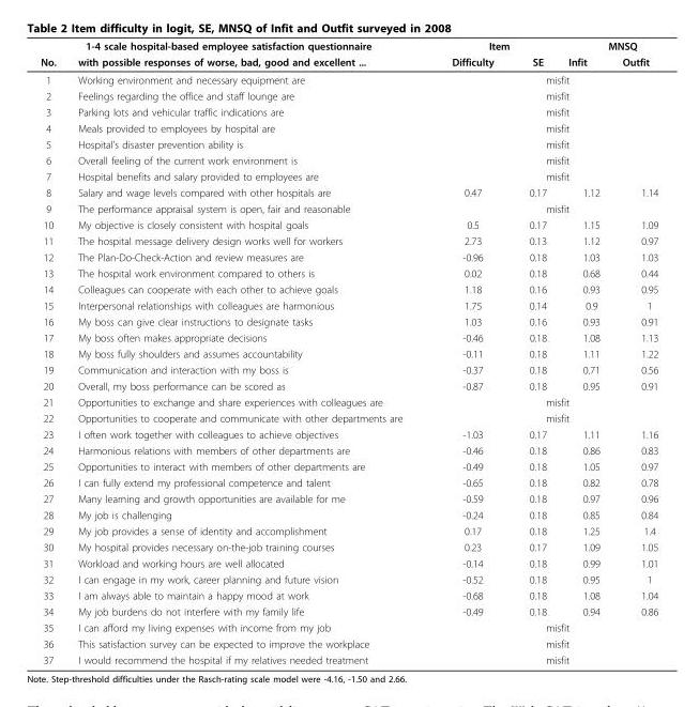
<table><thead><tr><td colspan="2">1-4 scale hospital-based employee satisfaction questionnaire</td><td colspan="2">Item</td><td colspan="2">MNSQ</td></tr><tr><td>No.</td><td>with possible responses of worse, bad, good and excellent ...</td><td>Difficulty</td><td>SE</td><td>Infit</td><td>Outfit</td></tr></thead><tbody><tr><td>1</td><td>Working environment and necessary equipment are</td><td colspan="4">misfit</td></tr><tr><td>2</td><td>Feelings regarding the office and staff lounge are</td><td colspan="4">misfit</td></tr><tr><td>3</td><td>Parking lots and vehicular traffic indications are</td><td colspan="4">misfit</td></tr><tr><td>4</td><td>Meals provided to employees by hospital are</td><td colspan="4">misfit</td></tr><tr><td>5</td><td>Hospital’s disaster prevention ability is</td><td colspan="4">misfit</td></tr><tr><td>6</td><td>Overall feeling of the current work environment is</td><td colspan="4">misfit</td></tr><tr><td>7</td><td>Hospital benefits and salary provided to employees are</td><td colspan="4">misfit</td></tr><tr><td>8</td><td>Salary and wage levels compared with other hospitals are</td><td>0.47</td><td>0.17</td><td>1.12</td><td>1.14</td></tr><tr><td>9</td><td>The performance appraisal system is open, fair and reasonable</td><td colspan="4">misfit</td></tr><tr><td>10</td><td>My objective is closely consistent with hospital goals</td><td>0.5</td><td>0.17</td><td>1.15</td><td>1.09</td></tr><tr><td>11</td><td>The hospital message delivery design works well for workers</td><td>2.73</td><td>0.13</td><td>1.12</td><td>0.97</td></tr><tr><td>12</td><td>The Plan-Do-Check-Action and review measures are</td><td>-0.96</td><td>0.18</td><td>1.03</td><td>1.03</td></tr><tr><td>13</td><td>The hospital work environment compared to others is</td><td>0.02</td><td>0.18</td><td>0.68</td><td>0.44</td></tr><tr><td>14</td><td>Colleagues can cooperate with each other to achieve goals</td><td>1.18</td><td>0.16</td><td>0.93</td><td>0.95</td></tr><tr><td>15</td><td>Interpersonal relationships with colleagues are harmonious</td><td>1.75</td><td>0.14</td><td>0.9</td><td>1</td></tr><tr><td>16</td><td>My boss can give clear instructions to designate tasks</td><td>1.03</td><td>0.16</td><td>0.93</td><td>0.91</td></tr><tr><td>17</td><td>My boss often makes appropriate decisions</td><td>-0.46</td><td>0.18</td><td>1.08</td><td>1.13</td></tr><tr><td>18</td><td>My boss fully shoulders and assumes accountability</td><td>-0.11</td><td>0.18</td><td>1.11</td><td>1.22</td></tr><tr><td>19</td><td>Communication and interaction with my boss is</td><td>-0.37</td><td>0.18</td><td>0.71</td><td>0.56</td></tr><tr><td>20</td><td>Overall, my boss performance can be scored as</td><td>-0.87</td><td>0.18</td><td>0.95</td><td>0.91</td></tr><tr><td>21</td><td>Opportunities to exchange and share experiences with colleagues are</td><td colspan="4">misfit</td></tr><tr><td>22</td><td>Opportunities to cooperate and communicate with other departments are</td><td colspan="4">misfit</td></tr><tr><td>23</td><td>I often work together with colleagues to achieve objectives</td><td>-1.03</td><td>0.17</td><td>1.11</td><td>1.16</td></tr><tr><td>24</td><td>Harmonious relations with members of other departments are</td><td>-0.46</td><td>0.18</td><td>0.86</td><td>0.83</td></tr><tr><td>25</td><td>Opportunities to interact with members of other departments are</td><td>-0.49</td><td>0.18</td><td>1.05</td><td>0.97</td></tr><tr><td>26</td><td>I can fully extend my professional competence and talent</td><td>-0.65</td><td>0.18</td><td>0.82</td><td>0.78</td></tr><tr><td>27</td><td>Many learning and growth opportunities are available for me</td><td>-0.59</td><td>0.18</td><td>0.97</td><td>0.96</td></tr><tr><td>28</td><td>My job is challenging</td><td>-0.24</td><td>0.18</td><td>0.85</td><td>0.84</td></tr><tr><td>29</td><td>My job provides a sense of identity and accomplishment</td><td>0.17</td><td>0.18</td><td>1.25</td><td>1.4</td></tr><tr><td>30</td><td>My hospital provides necessary on-the-job training courses</td><td>0.23</td><td>0.17</td><td>1.09</td><td>1.05</td></tr><tr><td>31</td><td>Workload and working hours are well allocated</td><td>-0.14</td><td>0.18</td><td>0.99</td><td>1.01</td></tr><tr><td>32</td><td>I can engage in my work, career planning and future vision</td><td>-0.52</td><td>0.18</td><td>0.95</td><td>1</td></tr><tr><td>33</td><td>I am always able to maintain a happy mood at work</td><td>-0.68</td><td>0.18</td><td>1.08</td><td>1.04</td></tr><tr><td>34</td><td>My job burdens do not interfere with my family life</td><td>-0.49</td><td>0.18</td><td>0.94</td><td>0.86</td></tr><tr><td>35</td><td>I can afford my living expenses with income from my job</td><td colspan="4">misfit</td></tr><tr><td>36</td><td>This satisfaction survey can be expected to improve the workplace</td><td colspan="4">misfit</td></tr><tr><td>37</td><td>I would recommend the hospital if my relatives needed treatment</td><td colspan="4">misfit</td></tr></tbody></table>